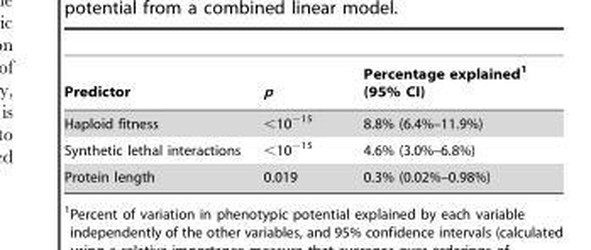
<table><thead><tr><td>Predictor</td><td>p</td><td>Percentage explained<sup>1</sup> (95% CI)</td></tr></thead><tbody><tr><td>Haploid fitness</td><td>&lt;10<sup>−15</sup></td><td>8.8% (6.4%–11.9%)</td></tr><tr><td>Synthetic lethal interactions</td><td>&lt;10<sup>−15</sup></td><td>4.6% (3.0%–6.8%)</td></tr><tr><td>Protein length</td><td>0.019</td><td>0.3% (0.02%–0.98%)</td></tr></tbody></table>